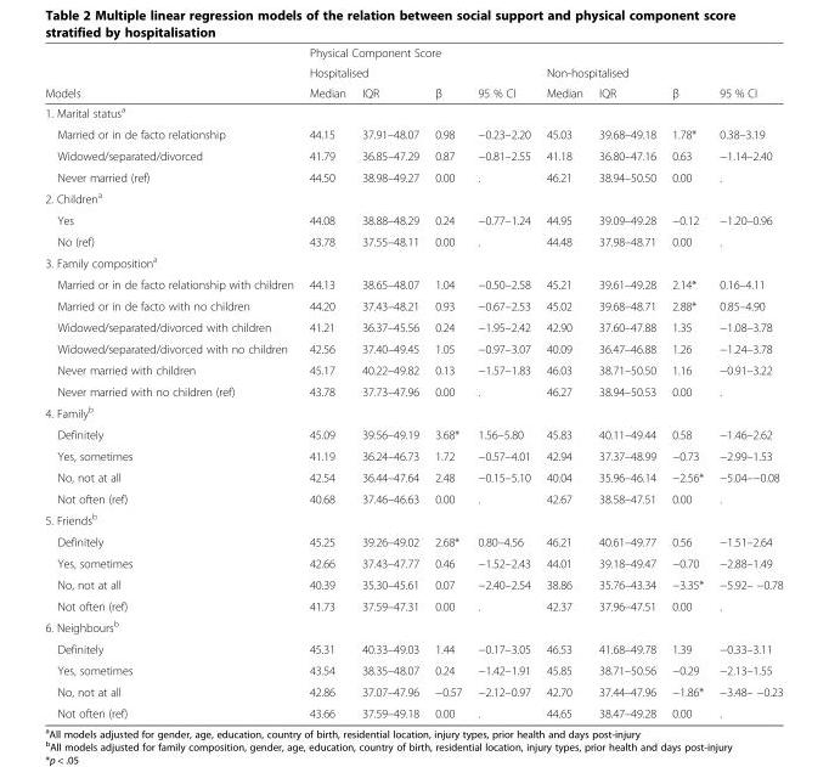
<table><thead><tr><td rowspan="3">Models</td><td colspan="8">Physical Component Score</td></tr><tr><td colspan="4">Hospitalised</td><td colspan="4">Non-hospitalised</td></tr><tr><td>Median</td><td>IQR</td><td>β</td><td>95 % CI</td><td>Median</td><td>IQR</td><td>β</td><td>95 % CI</td></tr></thead><tbody><tr><td colspan="9">1. Marital status<sup>a</sup></td></tr><tr><td>Married or in de facto relationship</td><td>44.15</td><td>37.91–48.07</td><td>0.98</td><td>−0.23–2.20</td><td>45.03</td><td>39.68–49.18</td><td>1.78*</td><td>0.38–3.19</td></tr><tr><td>Widowed/separated/divorced</td><td>41.79</td><td>36.85–47.29</td><td>0.87</td><td>−0.81–2.55</td><td>41.18</td><td>36.80–47.16</td><td>0.63</td><td>−1.14–2.40</td></tr><tr><td>Never married (ref)</td><td>44.50</td><td>38.98–49.27</td><td>0.00</td><td>.</td><td>46.21</td><td>38.94–50.50</td><td>0.00</td><td>.</td></tr><tr><td colspan="9">2. Children<sup>a</sup></td></tr><tr><td>Yes</td><td>44.08</td><td>38.88–48.29</td><td>0.24</td><td>−0.77–1.24</td><td>44.95</td><td>39.09–49.28</td><td>−0.12</td><td>−1.20–0.96</td></tr><tr><td>No (ref)</td><td>43.78</td><td>37.55–48.11</td><td>0.00</td><td>.</td><td>44.48</td><td>37.98–48.71</td><td>0.00</td><td>.</td></tr><tr><td colspan="9">3. Family composition<sup>a</sup></td></tr><tr><td>Married or in de facto relationship with children</td><td>44.13</td><td>38.65–48.07</td><td>1.04</td><td>−0.50–2.58</td><td>45.21</td><td>39.61–49.28</td><td>2.14*</td><td>0.16–4.11</td></tr><tr><td>Married or in de facto with no children</td><td>44.20</td><td>37.43–48.21</td><td>0.93</td><td>−0.67–2.53</td><td>45.02</td><td>39.68–48.71</td><td>2.88*</td><td>0.85–4.90</td></tr><tr><td>Widowed/separated/divorced with children</td><td>41.21</td><td>36.37–45.56</td><td>0.24</td><td>−1.95–2.42</td><td>42.90</td><td>37.60–47.88</td><td>1.35</td><td>−1.08–3.78</td></tr><tr><td>Widowed/separated/divorced with no children</td><td>42.56</td><td>37.40–49.45</td><td>1.05</td><td>−0.97–3.07</td><td>40.09</td><td>36.47–46.88</td><td>1.26</td><td>−1.24–3.78</td></tr><tr><td>Never married with children</td><td>45.17</td><td>40.22–49.82</td><td>0.13</td><td>−1.57–1.83</td><td>46.03</td><td>38.71–50.50</td><td>1.16</td><td>−0.91–3.22</td></tr><tr><td>Never married with no children (ref)</td><td>43.78</td><td>37.73–47.96</td><td>0.00</td><td>.</td><td>46.27</td><td>38.94–50.53</td><td>0.00</td><td>.</td></tr><tr><td colspan="9">4. Family<sup>b</sup></td></tr><tr><td>Definitely</td><td>45.09</td><td>39.56–49.19</td><td>3.68*</td><td>1.56–5.80</td><td>45.83</td><td>40.11–49.44</td><td>0.58</td><td>−1.46–2.62</td></tr><tr><td>Yes, sometimes</td><td>41.19</td><td>36.24–46.73</td><td>1.72</td><td>−0.57–4.01</td><td>42.94</td><td>37.37–48.99</td><td>−0.73</td><td>−2.99–1.53</td></tr><tr><td>No, not at all</td><td>42.54</td><td>36.44–47.64</td><td>2.48</td><td>−0.15–5.10</td><td>40.04</td><td>35.96–46.14</td><td>−2.56*</td><td>−5.04–−0.08</td></tr><tr><td>Not often (ref)</td><td>40.68</td><td>37.46–46.63</td><td>0.00</td><td>.</td><td>42.67</td><td>38.58–47.51</td><td>0.00</td><td>.</td></tr><tr><td colspan="9">5. Friends<sup>b</sup></td></tr><tr><td>Definitely</td><td>45.25</td><td>39.26–49.02</td><td>2.68*</td><td>0.80–4.56</td><td>46.21</td><td>40.61–49.77</td><td>0.56</td><td>−1.51–2.64</td></tr><tr><td>Yes, sometimes</td><td>42.66</td><td>37.43–47.77</td><td>0.46</td><td>−1.52–2.43</td><td>44.01</td><td>39.18–49.47</td><td>−0.70</td><td>−2.88–1.49</td></tr><tr><td>No, not at all</td><td>40.39</td><td>35.30–45.61</td><td>0.07</td><td>−2.40–2.54</td><td>38.86</td><td>35.76–43.34</td><td>−3.35*</td><td>−5.92– −0.78</td></tr><tr><td>Not often (ref)</td><td>41.73</td><td>37.59–47.31</td><td>0.00</td><td>.</td><td>42.37</td><td>37.96–47.51</td><td>0.00</td><td>.</td></tr><tr><td colspan="9">6. Neighbours<sup>b</sup></td></tr><tr><td>Definitely</td><td>45.31</td><td>40.33–49.03</td><td>1.44</td><td>−0.17–3.05</td><td>46.53</td><td>41.68–49.78</td><td>1.39</td><td>−0.33–3.11</td></tr><tr><td>Yes, sometimes</td><td>43.54</td><td>38.35–48.07</td><td>0.24</td><td>−1.42–1.91</td><td>45.85</td><td>38.71–50.56</td><td>−0.29</td><td>−2.13–1.55</td></tr><tr><td>No, not at all</td><td>42.86</td><td>37.07–47.96</td><td>−0.57</td><td>−2.12–0.97</td><td>42.70</td><td>37.44–47.96</td><td>−1.86*</td><td>−3.48– −0.23</td></tr><tr><td>Not often (ref)</td><td>43.66</td><td>37.59–49.18</td><td>0.00</td><td>.</td><td>44.65</td><td>38.47–49.28</td><td>0.00</td><td>.</td></tr></tbody></table>